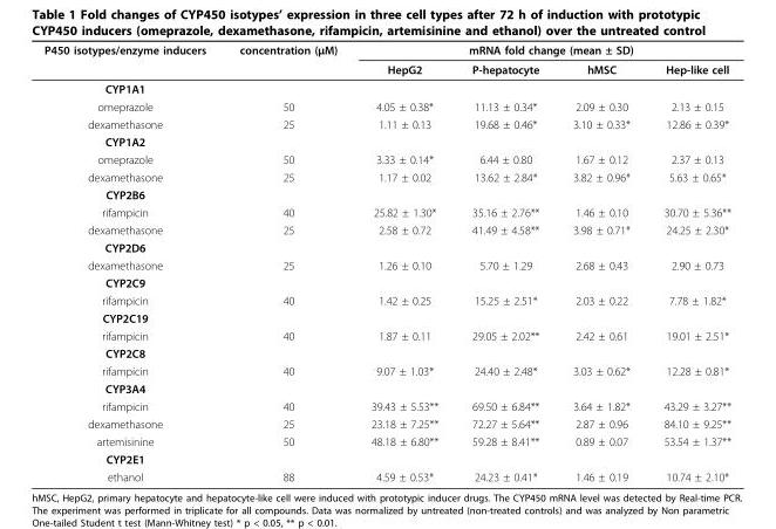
<table><thead><tr><td rowspan="2">P450 isotypes/enzyme inducers</td><td rowspan="2">concentration (μM)</td><td colspan="4">mRNA fold change (mean ± SD)</td></tr><tr><td>HepG2</td><td>P-hepatocyte</td><td>hMSC</td><td>Hep-like cell</td></tr></thead><tbody><tr><td colspan="6">CYP1A1</td></tr><tr><td>omeprazole</td><td>50</td><td>4.05 ± 0.38*</td><td>11.13 ± 0.34*</td><td>2.09 ± 0.30</td><td>2.13 ± 0.15</td></tr><tr><td>dexamethasone</td><td>25</td><td>1.11 ± 0.13</td><td>19.68 ± 0.46*</td><td>3.10 ± 0.33*</td><td>12.86 ± 0.39*</td></tr><tr><td colspan="6">CYP1A2</td></tr><tr><td>omeprazole</td><td>50</td><td>3.33 ± 0.14*</td><td>6.44 ± 0.80</td><td>1.67 ± 0.12</td><td>2.37 ± 0.13</td></tr><tr><td>dexamethasone</td><td>25</td><td>1.17 ± 0.02</td><td>13.62 ± 2.84*</td><td>3.82 ± 0.96*</td><td>5.63 ± 0.65*</td></tr><tr><td colspan="6">CYP2B6</td></tr><tr><td>rifampicin</td><td>40</td><td>25.82 ± 1.30*</td><td>35.16 ± 2.76**</td><td>1.46 ± 0.10</td><td>30.70 ± 5.36**</td></tr><tr><td>dexamethasone</td><td>25</td><td>2.58 ± 0.72</td><td>41.49 ± 4.58**</td><td>3.98 ± 0.71*</td><td>24.25 ± 2.30*</td></tr><tr><td colspan="6">CYP2D6</td></tr><tr><td>dexamethasone</td><td>25</td><td>1.26 ± 0.10</td><td>5.70 ± 1.29</td><td>2.68 ± 0.43</td><td>2.90 ± 0.73</td></tr><tr><td colspan="6">CYP2C9</td></tr><tr><td>rifampicin</td><td>40</td><td>1.42 ± 0.25</td><td>15.25 ± 2.51*</td><td>2.03 ± 0.22</td><td>7.78 ± 1.82*</td></tr><tr><td colspan="6">CYP2C19</td></tr><tr><td>rifampicin</td><td>40</td><td>1.87 ± 0.11</td><td>29.05 ± 2.02**</td><td>2.42 ± 0.61</td><td>19.01 ± 2.51*</td></tr><tr><td colspan="6">CYP2C8</td></tr><tr><td>rifampicin</td><td>40</td><td>9.07 ± 1.03*</td><td>24.40 ± 2.48*</td><td>3.03 ± 0.62*</td><td>12.28 ± 0.81*</td></tr><tr><td colspan="6">CYP3A4</td></tr><tr><td>rifampicin</td><td>40</td><td>39.43 ± 5.53**</td><td>69.50 ± 6.84**</td><td>3.64 ± 1.82*</td><td>43.29 ± 3.27**</td></tr><tr><td>dexamethasone</td><td>25</td><td>23.18 ± 7.25**</td><td>72.27 ± 5.64**</td><td>2.87 ± 0.96</td><td>84.10 ± 9.25**</td></tr><tr><td>artemisinine</td><td>50</td><td>48.18 ± 6.80**</td><td>59.28 ± 8.41**</td><td>0.89 ± 0.07</td><td>53.54 ± 1.37**</td></tr><tr><td colspan="6">CYP2E1</td></tr><tr><td>ethanol</td><td>88</td><td>4.59 ± 0.53*</td><td>24.23 ± 0.41*</td><td>1.46 ± 0.19</td><td>10.74 ± 2.10*</td></tr></tbody></table>